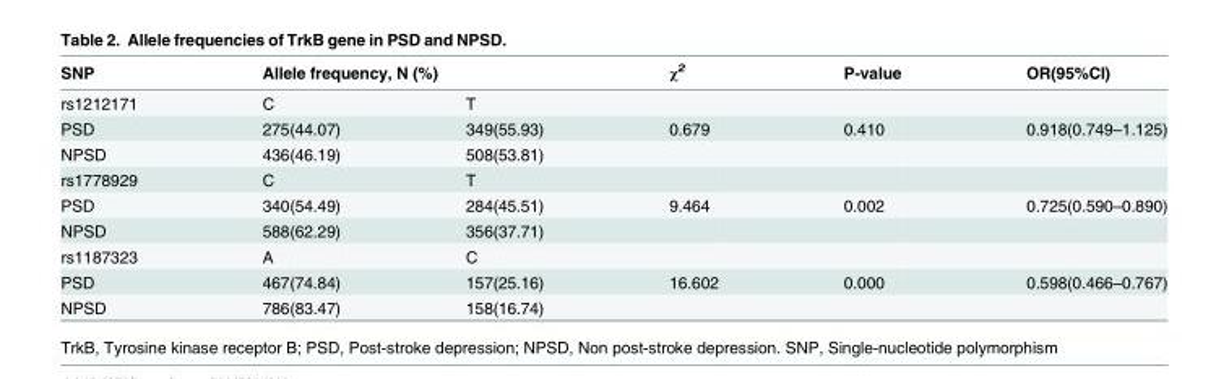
<table><thead><tr><td rowspan="2">SNP rs1212171</td><td colspan="2">Allele frequency, N (%)</td><td rowspan="2">χ<sup>2</sup></td><td rowspan="2">P-value</td><td rowspan="2">OR(95%CI)</td></tr><tr><td>C</td><td>T</td></tr></thead><tbody><tr><td>PSD</td><td>275(44.07)</td><td>349(55.93)</td><td>0.679</td><td>0.410</td><td>0.918(0.749–1.125)</td></tr><tr><td>NPSD</td><td>436(46.19)</td><td>508(53.81)</td><td></td><td></td><td></td></tr><tr><td>rs1778929</td><td>C</td><td>T</td><td></td><td></td><td></td></tr><tr><td>PSD</td><td>340(54.49)</td><td>284(45.51)</td><td>9.464</td><td>0.002</td><td>0.725(0.590–0.890)</td></tr><tr><td>NPSD</td><td>588(62.29)</td><td>356(37.71)</td><td></td><td></td><td></td></tr><tr><td>rs1187323</td><td>A</td><td>C</td><td></td><td></td><td></td></tr><tr><td>PSD</td><td>467(74.84)</td><td>157(25.16)</td><td>16.602</td><td>0.000</td><td>0.598(0.466–0.767)</td></tr><tr><td>NPSD</td><td>786(83.47)</td><td>158(16.74)</td><td></td><td></td><td></td></tr></tbody></table>